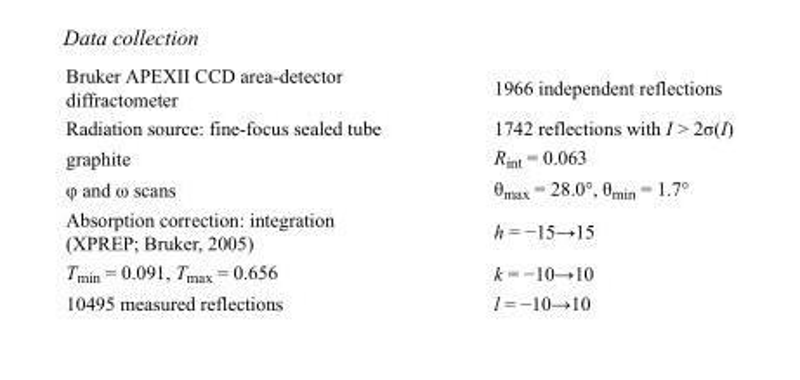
<table><tbody><tr><td>Bruker APEXII CCD area-detector diffractometer</td><td>1966 independent reflections</td></tr><tr><td>Radiation source: fine-focus sealed tube</td><td>1742 reflections with I &gt; 2σ(I)</td></tr><tr><td>graphite</td><td>R<sub>int</sub> = 0.063</td></tr><tr><td>φ and ω scans</td><td>θ<sub>max</sub> = 28.0°, θ<sub>min</sub> = 1.7°</td></tr><tr><td>Absorption correction: integration (XPREP; Bruker, 2005)</td><td>h = −15→15</td></tr><tr><td>T<sub>min</sub> = 0.091, T<sub>max</sub> = 0.656</td><td>k = −10→10</td></tr><tr><td>10495 measured reflections</td><td>l = −10→10</td></tr></tbody></table>